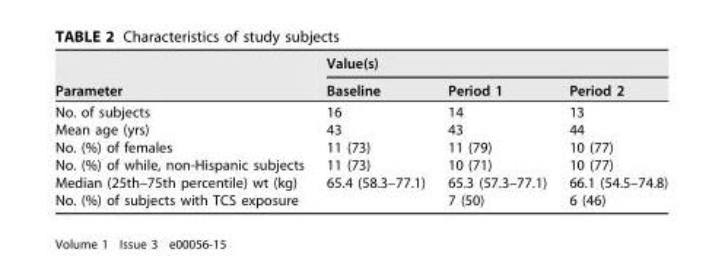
<table><thead><tr><td rowspan="2">Parameter</td><td colspan="3">Value(s)</td></tr><tr><td>Baseline</td><td>Period 1</td><td>Period 2</td></tr></thead><tbody><tr><td>No. of subjects</td><td>16</td><td>14</td><td>13</td></tr><tr><td>Mean age (yrs)</td><td>43</td><td>43</td><td>44</td></tr><tr><td>No. (%) of females</td><td>11 (73)</td><td>11 (79)</td><td>10 (77)</td></tr><tr><td>No. (%) of while, non-Hispanic subjects</td><td>11 (73)</td><td>10 (71)</td><td>10 (77)</td></tr><tr><td>Median (25th–75th percentile) wt (kg)</td><td>65.4 (58.3–77.1)</td><td>65.3 (57.3–77.1)</td><td>66.1 (54.5–74.8)</td></tr><tr><td>No. (%) of subjects with TCS exposure</td><td></td><td>7 (50)</td><td>6 (46)</td></tr></tbody></table>